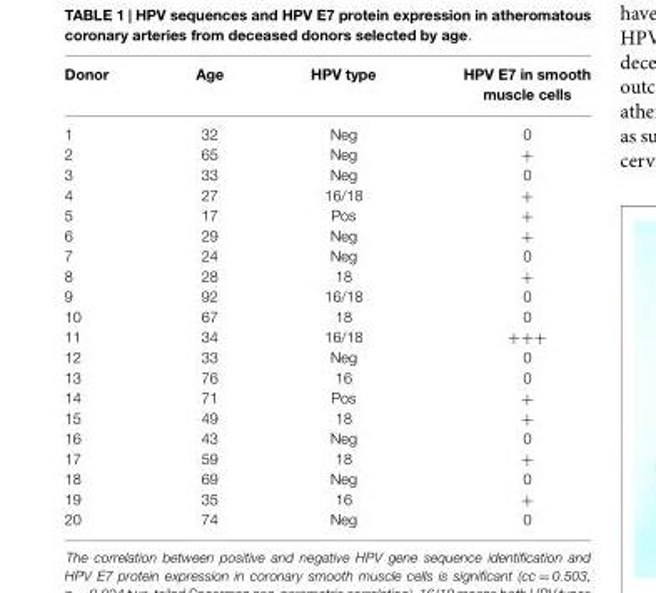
<table><thead><tr><td>Donor</td><td>Age</td><td>HPV type</td><td>HPV E7 in smooth muscle cells</td></tr></thead><tbody><tr><td>1</td><td>32</td><td>Neg</td><td>0</td></tr><tr><td>2</td><td>65</td><td>Neg</td><td>+</td></tr><tr><td>3</td><td>33</td><td>Neg</td><td>0</td></tr><tr><td>4</td><td>27</td><td>16/18</td><td>+</td></tr><tr><td>5</td><td>17</td><td>Pos</td><td>+</td></tr><tr><td>6</td><td>29</td><td>Neg</td><td>+</td></tr><tr><td>7</td><td>24</td><td>Neg</td><td>0</td></tr><tr><td>8</td><td>28</td><td>18</td><td>+</td></tr><tr><td>9</td><td>92</td><td>16/18</td><td>0</td></tr><tr><td>10</td><td>67</td><td>18</td><td>0</td></tr><tr><td>11</td><td>34</td><td>16/18</td><td>+++</td></tr><tr><td>12</td><td>33</td><td>Neg</td><td>0</td></tr><tr><td>13</td><td>76</td><td>16</td><td>0</td></tr><tr><td>14</td><td>71</td><td>Pos</td><td>+</td></tr><tr><td>15</td><td>49</td><td>18</td><td>+</td></tr><tr><td>16</td><td>43</td><td>Neg</td><td>0</td></tr><tr><td>17</td><td>59</td><td>18</td><td>+</td></tr><tr><td>18</td><td>69</td><td>Neg</td><td>0</td></tr><tr><td>19</td><td>35</td><td>16</td><td>+</td></tr><tr><td>20</td><td>74</td><td>Neg</td><td>0</td></tr></tbody></table>